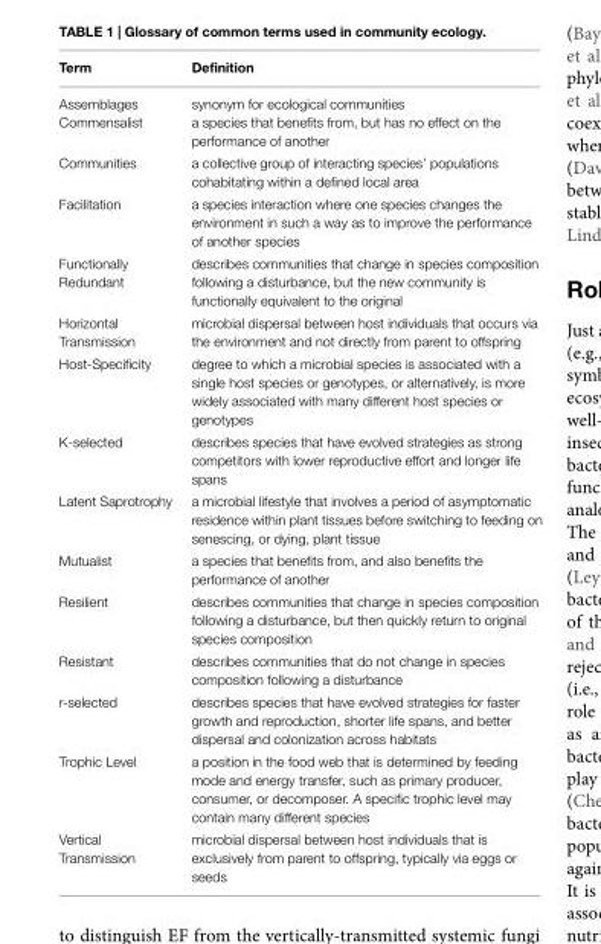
<table><thead><tr><td>Term</td><td>Definition</td></tr></thead><tbody><tr><td>Assemblages Commensalist</td><td>synonym for ecological communities a species that benefits from, but has no effect on the performance of another</td></tr><tr><td>Communities</td><td>a collective group of interacting species’ populations cohabitating within a defined local area</td></tr><tr><td>Facilitation</td><td>a species interaction where one species changes the environment in such a way as to improve the performance of another species</td></tr><tr><td>Functionally Redundant</td><td>describes communities that change in species composition following a disturbance, but the new community is functionally equivalent to the original</td></tr><tr><td>Horizontal Transmission</td><td>microbial dispersal between host individuals that occurs via the environment and not directly from parent to offspring</td></tr><tr><td>Host-Specificity</td><td>degree to which a microbial species is associated with a single host species or genotypes, or alternatively, is more widely associated with many different host species or genotypes</td></tr><tr><td>K-selected</td><td>describes species that have evolved strategies as strong competitors with lower reproductive effort and longer life spans</td></tr><tr><td>Latent Saprotrophy</td><td>a microbial lifestyle that involves a period of asymptomatic residence within plant tissues before switching to feeding on senescing, or dying, plant tissue</td></tr><tr><td>Mutualist</td><td>a species that benefits from, and also benefits the performance of another</td></tr><tr><td>Resilient</td><td>describes communities that change in species composition following a disturbance, but then quickly return to original species composition</td></tr><tr><td>Resistant</td><td>describes communities that do not change in species composition following a disturbance</td></tr><tr><td>r-selected</td><td>describes species that have evolved strategies for faster growth and reproduction, shorter life spans, and better dispersal and colonization across habitats</td></tr><tr><td>Trophic Level</td><td>a position in the food web that is determined by feeding mode and energy transfer, such as primary producer, consumer, or decomposer. A specific trophic level may contain many different species</td></tr><tr><td>Vertical Transmission</td><td>microbial dispersal between host individuals that is exclusively from parent to offspring, typically via eggs or seeds</td></tr></tbody></table>